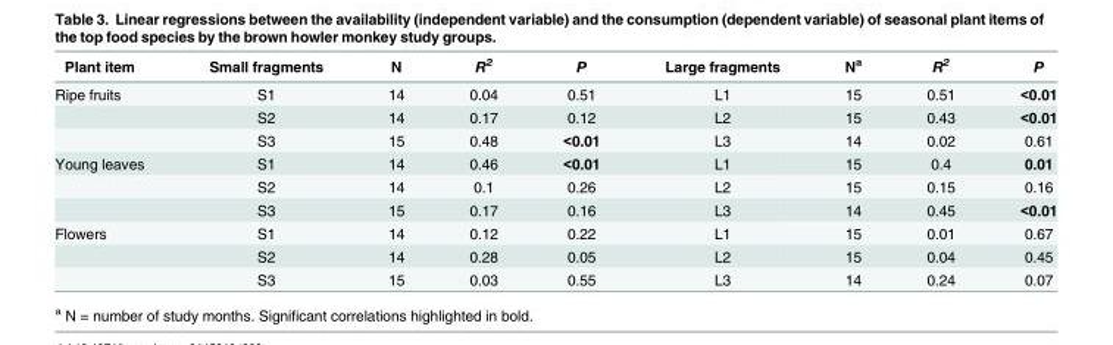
<table><thead><tr><td>Plant item</td><td>Small fragments</td><td>N</td><td>R<sup>2</sup></td><td>P</td><td>Large fragments</td><td>N<sup>a</sup></td><td>R<sup>2</sup></td><td>P</td></tr></thead><tbody><tr><td rowspan="3">Ripe fruits</td><td>S1</td><td>14</td><td>0.04</td><td>0.51</td><td>L1</td><td>15</td><td>0.51</td><td>&lt;0.01</td></tr><tr><td>S2</td><td>14</td><td>0.17</td><td>0.12</td><td>L2</td><td>15</td><td>0.43</td><td>&lt;0.01</td></tr><tr><td>S3</td><td>15</td><td>0.48</td><td>&lt;0.01</td><td>L3</td><td>14</td><td>0.02</td><td>0.61</td></tr><tr><td rowspan="3">Young leaves</td><td>S1</td><td>14</td><td>0.46</td><td>&lt;0.01</td><td>L1</td><td>15</td><td>0.4</td><td>0.01</td></tr><tr><td>S2</td><td>14</td><td>0.1</td><td>0.26</td><td>L2</td><td>15</td><td>0.15</td><td>0.16</td></tr><tr><td>S3</td><td>15</td><td>0.17</td><td>0.16</td><td>L3</td><td>14</td><td>0.45</td><td>&lt;0.01</td></tr><tr><td rowspan="3">Flowers</td><td>S1</td><td>14</td><td>0.12</td><td>0.22</td><td>L1</td><td>15</td><td>0.01</td><td>0.67</td></tr><tr><td>S2</td><td>14</td><td>0.28</td><td>0.05</td><td>L2</td><td>15</td><td>0.04</td><td>0.45</td></tr><tr><td>S3</td><td>15</td><td>0.03</td><td>0.55</td><td>L3</td><td>14</td><td>0.24</td><td>0.07</td></tr></tbody></table>